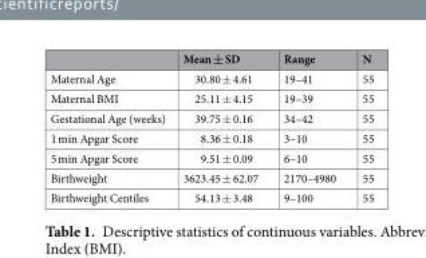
<table><thead><tr><td></td><td>Mean ± SD</td><td>Range</td><td>N</td></tr></thead><tbody><tr><td>Maternal Age</td><td>30.80 ± 4.61</td><td>19–41</td><td>55</td></tr><tr><td>Maternal BMI</td><td>25.11 ± 4.15</td><td>19–39</td><td>55</td></tr><tr><td>Gestational Age (weeks)</td><td>39.75 ± 0.16</td><td>34–42</td><td>55</td></tr><tr><td>1 min Apgar Score</td><td>8.36 ± 0.18</td><td>3–10</td><td>55</td></tr><tr><td>5 min Apgar Score</td><td>9.51 ± 0.09</td><td>6–10</td><td>55</td></tr><tr><td>Birthweight</td><td>3623.45 ± 62.07</td><td>2170–4980</td><td>55</td></tr><tr><td>Birthweight Centiles</td><td>54.13 ± 3.48</td><td>9–100</td><td>55</td></tr></tbody></table>